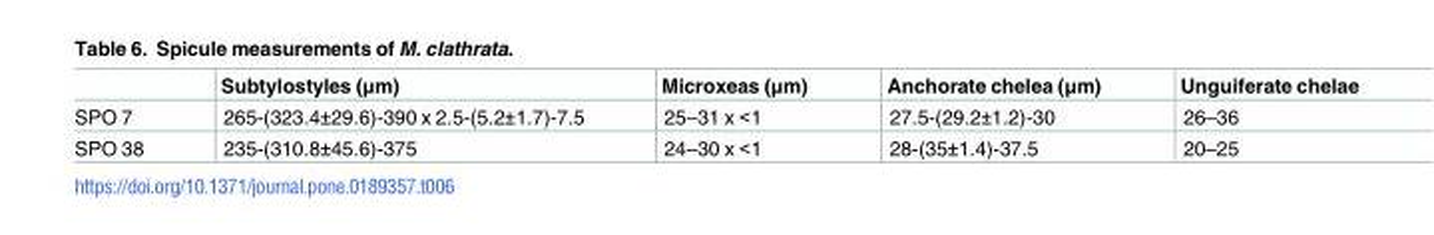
<table><thead><tr><td></td><td>Subtylostyles (μm)</td><td>Microxeas (μm)</td><td>Anchorate chelea (μm)</td><td>Unguiferate chelae</td></tr></thead><tbody><tr><td>SPO 7</td><td>265-(323.4±29.6)-390 x 2.5-(5.2±1.7)-7.5</td><td>25–31 x &lt;1</td><td>27.5-(29.2±1.2)-30</td><td>26–36</td></tr><tr><td>SPO 38</td><td>235-(310.8±45.6)-375</td><td>24–30 x &lt;1</td><td>28-(35±1.4)-37.5</td><td>20–25</td></tr></tbody></table>